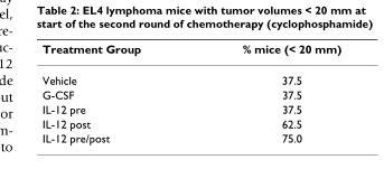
<table><thead><tr><td>Treatment Group</td><td>% mice (&lt; 20 mm)</td></tr></thead><tbody><tr><td>Vehicle</td><td>37.5</td></tr><tr><td>G-CSF</td><td>37.5</td></tr><tr><td>IL-12 pre</td><td>37.5</td></tr><tr><td>IL-12 post</td><td>62.5</td></tr><tr><td>IL-12 pre/post</td><td>75.0</td></tr></tbody></table>